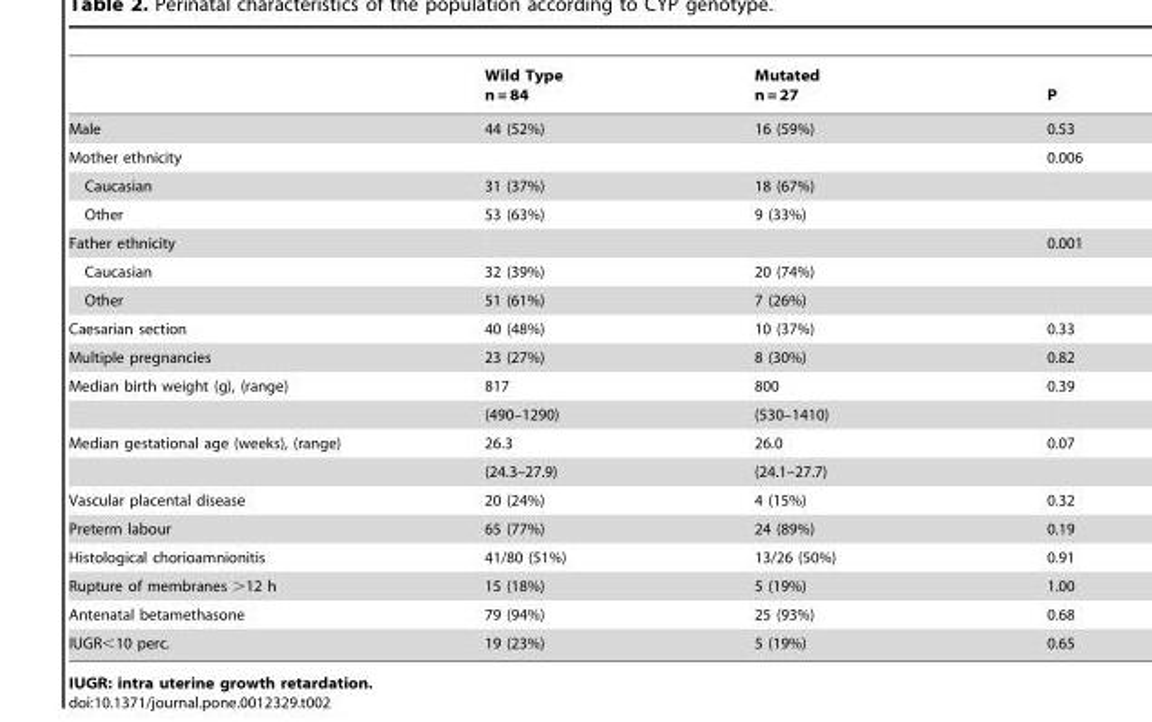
<table><thead><tr><td></td><td>Wild Type n = 84</td><td>Mutated n = 27</td><td>P</td></tr></thead><tbody><tr><td>Male</td><td>44 (52%)</td><td>16 (59%)</td><td>0.53</td></tr><tr><td>Mother ethnicity</td><td></td><td></td><td>0.006</td></tr><tr><td>Caucasian</td><td>31 (37%)</td><td>18 (67%)</td><td></td></tr><tr><td>Other</td><td>53 (63%)</td><td>9 (33%)</td><td></td></tr><tr><td>Father ethnicity</td><td></td><td></td><td>0.001</td></tr><tr><td>Caucasian</td><td>32 (39%)</td><td>20 (74%)</td><td></td></tr><tr><td>Other</td><td>51 (61%)</td><td>7 (26%)</td><td></td></tr><tr><td>Caesarian section</td><td>40 (48%)</td><td>10 (37%)</td><td>0.33</td></tr><tr><td>Multiple pregnancies</td><td>23 (27%)</td><td>8 (30%)</td><td>0.82</td></tr><tr><td rowspan="2">Median birth weight (g), (range)</td><td>817</td><td>800</td><td>0.39</td></tr><tr><td>(490–1290)</td><td>(530–1410)</td><td></td></tr><tr><td rowspan="2">Median gestational age (weeks), (range)</td><td>26.3</td><td>26.0</td><td>0.07</td></tr><tr><td>(24.3–27.9)</td><td>(24.1–27.7)</td><td></td></tr><tr><td>Vascular placental disease</td><td>20 (24%)</td><td>4 (15%)</td><td>0.32</td></tr><tr><td>Preterm labour</td><td>65 (77%)</td><td>24 (89%)</td><td>0.19</td></tr><tr><td>Histological chorioamnionitis</td><td>41/80 (51%)</td><td>13/26 (50%)</td><td>0.91</td></tr><tr><td>Rupture of membranes &gt;12 h</td><td>15 (18%)</td><td>5 (19%)</td><td>1.00</td></tr><tr><td>Antenatal betamethasone</td><td>79 (94%)</td><td>25 (93%)</td><td>0.68</td></tr><tr><td>IUGR&lt;10 perc.</td><td>19 (23%)</td><td>5 (19%)</td><td>0.65</td></tr></tbody></table>